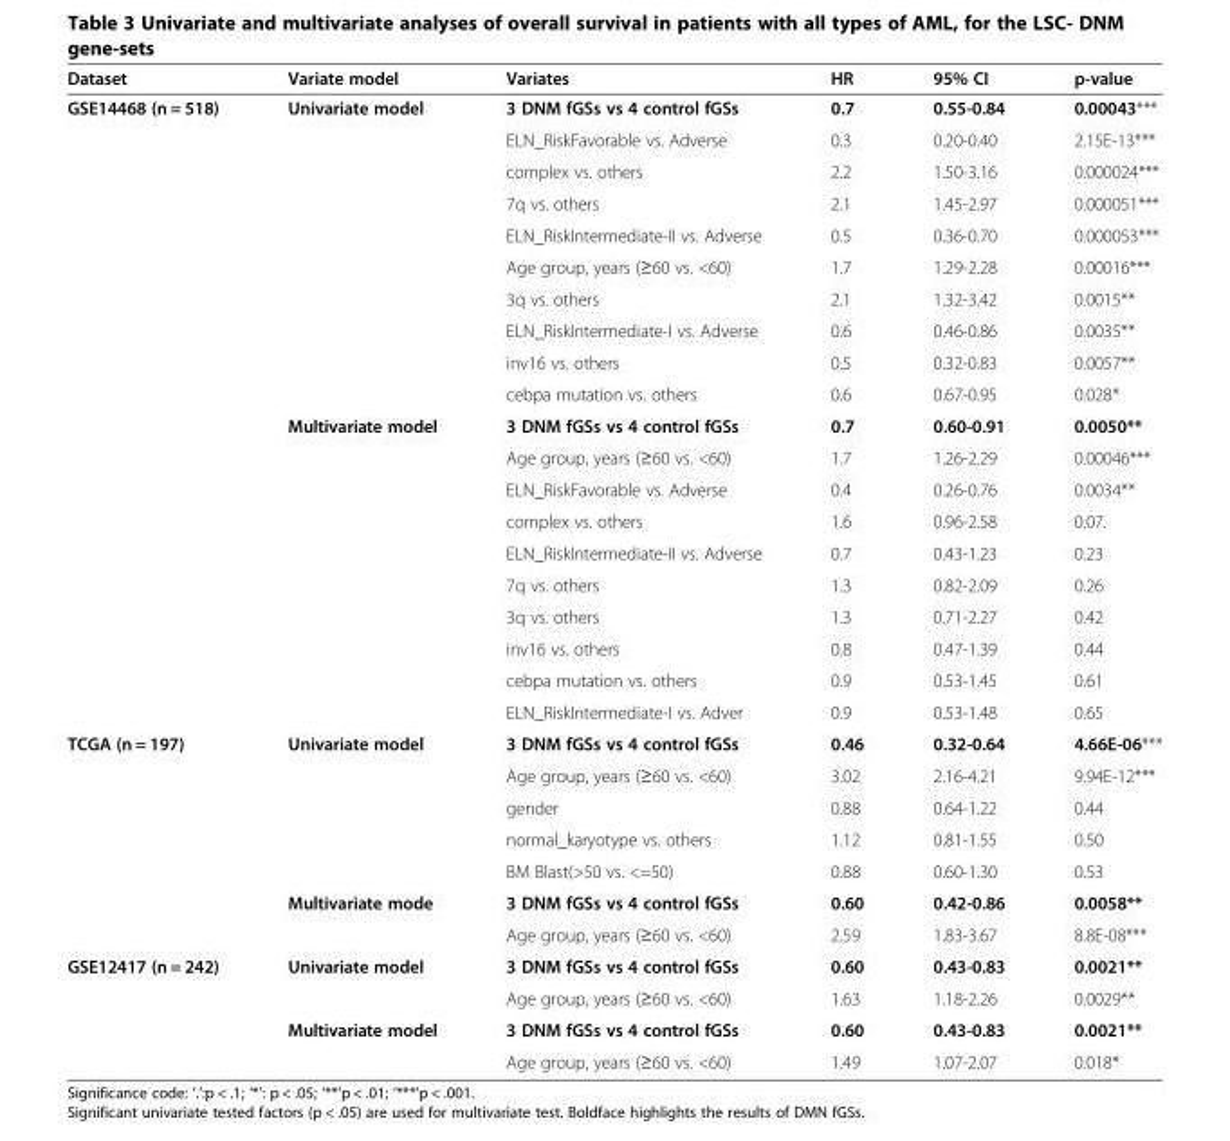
<table><thead><tr><td>Dataset</td><td>Variate model</td><td>Variates</td><td>HR</td><td>95% CI</td><td>p-value</td></tr></thead><tbody><tr><td rowspan="20">GSE14468 (n = 518)</td><td rowspan="10">Univariate model</td><td>3 DNM fGSs vs 4 control fGSs</td><td>0.7</td><td>0.55-0.84</td><td>0.00043***</td></tr><tr><td>ELN_RiskFavorable vs. Adverse</td><td>0.3</td><td>0.20-0.40</td><td>2.15E-13***</td></tr><tr><td>complex vs. others</td><td>2.2</td><td>1.50-3.16</td><td>0.000024***</td></tr><tr><td>7q vs. others</td><td>2.1</td><td>1.45-2.97</td><td>0.000051***</td></tr><tr><td>ELN_RiskIntermediate-II vs. Adverse</td><td>0.5</td><td>0.36-0.70</td><td>0.000053***</td></tr><tr><td>Age group, years (≥60 vs. &lt;60)</td><td>1.7</td><td>1.29-2.28</td><td>0.00016***</td></tr><tr><td>3q vs. others</td><td>2.1</td><td>1.32-3.42</td><td>0.0015**</td></tr><tr><td>ELN_RiskIntermediate-I vs. Adverse</td><td>0.6</td><td>0.46-0.86</td><td>0.0035**</td></tr><tr><td>inv16 vs. others</td><td>0.5</td><td>0.32-0.83</td><td>0.0057**</td></tr><tr><td>cebpa mutation vs. others</td><td>0.6</td><td>0.67-0.95</td><td>0.028*</td></tr><tr><td rowspan="10">Multivariate model</td><td>3 DNM fGSs vs 4 control fGSs</td><td>0.7</td><td>0.60-0.91</td><td>0.0050**</td></tr><tr><td>Age group, years (≥60 vs. &lt;60)</td><td>1.7</td><td>1.26-2.29</td><td>0.00046***</td></tr><tr><td>ELN_RiskFavorable vs. Adverse</td><td>0.4</td><td>0.26-0.76</td><td>0.0034**</td></tr><tr><td>complex vs. others</td><td>1.6</td><td>0.96-2.58</td><td>0.07.</td></tr><tr><td>ELN_RiskIntermediate-II vs. Adverse</td><td>0.7</td><td>0.43-1.23</td><td>0.23</td></tr><tr><td>7q vs. others</td><td>1.3</td><td>0.82-2.09</td><td>0.26</td></tr><tr><td>3q vs. others</td><td>1.3</td><td>0.71-2.27</td><td>0.42</td></tr><tr><td>inv16 vs. others</td><td>0.8</td><td>0.47-1.39</td><td>0.44</td></tr><tr><td>cebpa mutation vs. others</td><td>0.9</td><td>0.53-1.45</td><td>0.61</td></tr><tr><td>ELN_RiskIntermediate-I vs. Adver</td><td>0.9</td><td>0.53-1.48</td><td>0.65</td></tr><tr><td rowspan="7">TCGA (n = 197)</td><td rowspan="5">Univariate model</td><td>3 DNM fGSs vs 4 control fGSs</td><td>0.46</td><td>0.32-0.64</td><td>4.66E-06***</td></tr><tr><td>Age group, years (≥60 vs. &lt;60)</td><td>3.02</td><td>2.16-4.21</td><td>9.94E-12***</td></tr><tr><td>gender</td><td>0.88</td><td>0.64-1.22</td><td>0.44</td></tr><tr><td>normal_karyotype vs. others</td><td>1.12</td><td>0.81-1.55</td><td>0.50</td></tr><tr><td>BM Blast(&gt;50 vs. &lt;=50)</td><td>0.88</td><td>0.60-1.30</td><td>0.53</td></tr><tr><td rowspan="2">Multivariate mode</td><td>3 DNM fGSs vs 4 control fGSs</td><td>0.60</td><td>0.42-0.86</td><td>0.0058**</td></tr><tr><td>Age group, years (≥60 vs. &lt;60)</td><td>2.59</td><td>1.83-3.67</td><td>8.8E-08***</td></tr><tr><td rowspan="4">GSE12417 (n = 242)</td><td rowspan="2">Univariate model</td><td>3 DNM fGSs vs 4 control fGSs</td><td>0.60</td><td>0.43-0.83</td><td>0.0021**</td></tr><tr><td>Age group, years (≥60 vs. &lt;60)</td><td>1.63</td><td>1.18-2.26</td><td>0.0029**</td></tr><tr><td rowspan="2">Multivariate model</td><td>3 DNM fGSs vs 4 control fGSs</td><td>0.60</td><td>0.43-0.83</td><td>0.0021**</td></tr><tr><td>Age group, years (≥60 vs. &lt;60)</td><td>1.49</td><td>1.07-2.07</td><td>0.018*</td></tr></tbody></table>